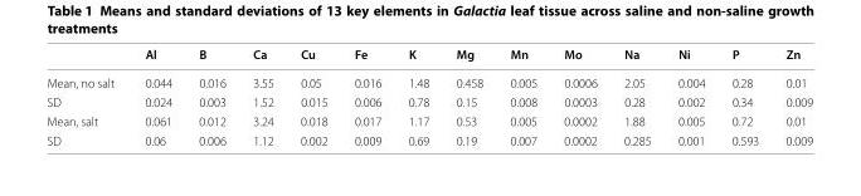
<table><thead><tr><td></td><td>Al</td><td>B</td><td>Ca</td><td>Cu</td><td>Fe</td><td>K</td><td>Mg</td><td>Mn</td><td>Mo</td><td>Na</td><td>Ni</td><td>P</td><td>Zn</td></tr></thead><tbody><tr><td>Mean, no salt</td><td>0.044</td><td>0.016</td><td>3.55</td><td>0.05</td><td>0.016</td><td>1.48</td><td>0.458</td><td>0.005</td><td>0.0006</td><td>2.05</td><td>0.004</td><td>0.28</td><td>0.01</td></tr><tr><td>SD</td><td>0.024</td><td>0.003</td><td>1.52</td><td>0.015</td><td>0.006</td><td>0.78</td><td>0.15</td><td>0.008</td><td>0.0003</td><td>0.28</td><td>0.002</td><td>0.34</td><td>0.009</td></tr><tr><td>Mean, salt</td><td>0.061</td><td>0.012</td><td>3.24</td><td>0.018</td><td>0.017</td><td>1.17</td><td>0.53</td><td>0.005</td><td>0.0002</td><td>1.88</td><td>0.005</td><td>0.72</td><td>0.01</td></tr><tr><td>SD</td><td>0.06</td><td>0.006</td><td>1.12</td><td>0.002</td><td>0.009</td><td>0.69</td><td>0.19</td><td>0.007</td><td>0.0002</td><td>0.285</td><td>0.001</td><td>0.593</td><td>0.009</td></tr></tbody></table>